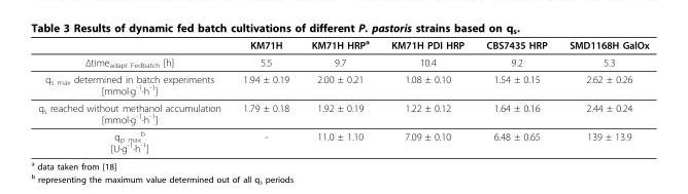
<table><thead><tr><td></td><td>KM71H</td><td>KM71H HRP<sup>a</sup></td><td>KM71H PDI HRP</td><td>CBS7435 HRP</td><td>SMD1168H GalOx</td></tr></thead><tbody><tr><td>Δtime<sub>adapt Fedbatch</sub> [h]</td><td>5.5</td><td>9.7</td><td>10.4</td><td>9.2</td><td>5.3</td></tr><tr><td>q<sub>s max</sub> determined in batch experiments [mmol·g<sup>-1</sup>·h<sup>-1</sup>]</td><td>1.94 ± 0.19</td><td>2.00 ± 0.21</td><td>1.08 ± 0.10</td><td>1.54 ± 0.15</td><td>2.62 ± 0.26</td></tr><tr><td>q<sub>s</sub> reached without methanol accumulation [mmol·g<sup>-1</sup>·h<sup>-1</sup>]</td><td>1.79 ± 0.18</td><td>1.92 ± 0.19</td><td>1.22 ± 0.12</td><td>1.64 ± 0.16</td><td>2.44 ± 0.24</td></tr><tr><td>q<sub>p max</sub> <sup>b</sup> [U·g<sup>-1</sup>·h<sup>-1</sup>]</td><td>-</td><td>11.0 ± 1.10</td><td>7.09 ± 0.10</td><td>6.48 ± 0.65</td><td>139 ± 13.9</td></tr></tbody></table>